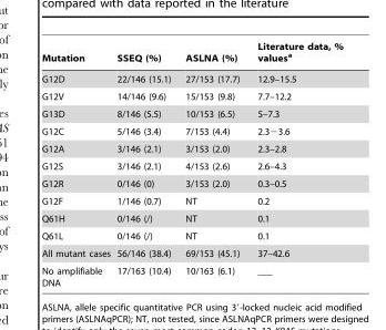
<table><thead><tr><td>Mutation</td><td>SSEQ (%)</td><td>ASLNA (%)</td><td>Literature data, % values<sup>a</sup></td></tr></thead><tbody><tr><td>G12D</td><td>22/146 (15.1)</td><td>27/153 (17.7)</td><td>12.9–15.5</td></tr><tr><td>G12V</td><td>14/146 (9.6)</td><td>15/153 (9.8)</td><td>7.7–12.2</td></tr><tr><td>G13D</td><td>8/146 (5.5)</td><td>10/153 (6.5)</td><td>5–7.3</td></tr><tr><td>G12C</td><td>5/146 (3.4)</td><td>7/153 (4.4)</td><td>2.3−3.6</td></tr><tr><td>G12A</td><td>3/146 (2.1)</td><td>3/153 (2.0)</td><td>2.3–2.8</td></tr><tr><td>G12S</td><td>3/146 (2.1)</td><td>4/153 (2.6)</td><td>2.6–4.3</td></tr><tr><td>G12R</td><td>0/146 (0)</td><td>3/153 (2.0)</td><td>0.3–0.5</td></tr><tr><td>G12F</td><td>1/146 (0.7)</td><td>NT</td><td>0.2</td></tr><tr><td>Q61H</td><td>0/146 (/)</td><td>NT</td><td>0.1</td></tr><tr><td>Q61L</td><td>0/146 (/)</td><td>NT</td><td>0.1</td></tr><tr><td>All mutant cases</td><td>56/146 (38.4)</td><td>69/153 (45.1)</td><td>37–42.6</td></tr><tr><td>No amplifiable DNA</td><td>17/163 (10.4)</td><td>10/163 (6.1)</td><td>___</td></tr></tbody></table>